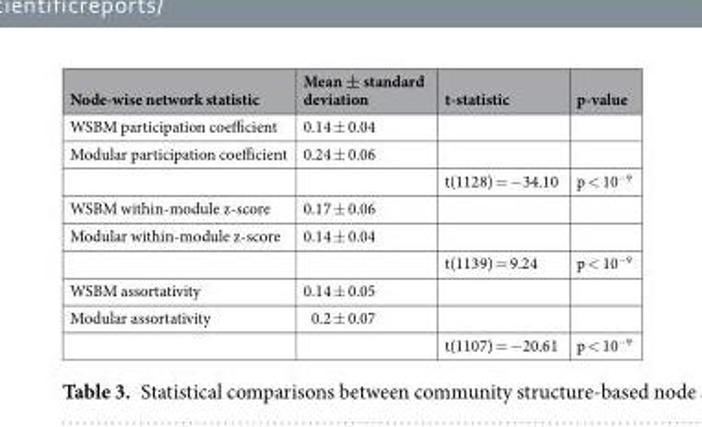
<table><thead><tr><td>Node-wise network statistic</td><td>Mean ± standard deviation</td><td>t-statistic</td><td>p-value</td></tr></thead><tbody><tr><td>WSBM participation coefficient</td><td>0.14 ± 0.04</td><td></td><td></td></tr><tr><td rowspan="2">Modular participation coefficient</td><td>0.24 ± 0.06</td><td></td><td></td></tr><tr><td></td><td>t(1128) = −34.10</td><td>p &lt; 10<sup>−9</sup></td></tr><tr><td>WSBM within-module z-score</td><td>0.17 ± 0.06</td><td></td><td></td></tr><tr><td rowspan="2">Modular within-module z-score</td><td>0.14 ± 0.04</td><td></td><td></td></tr><tr><td></td><td>t(1139) = 9.24</td><td>p &lt; 10<sup>−9</sup></td></tr><tr><td>WSBM assortativity</td><td>0.14 ± 0.05</td><td></td><td></td></tr><tr><td rowspan="2">Modular assortativity</td><td>0.2 ± 0.07</td><td></td><td></td></tr><tr><td></td><td>t(1107) = −20.61</td><td>p &lt; 10<sup>−9</sup></td></tr></tbody></table>